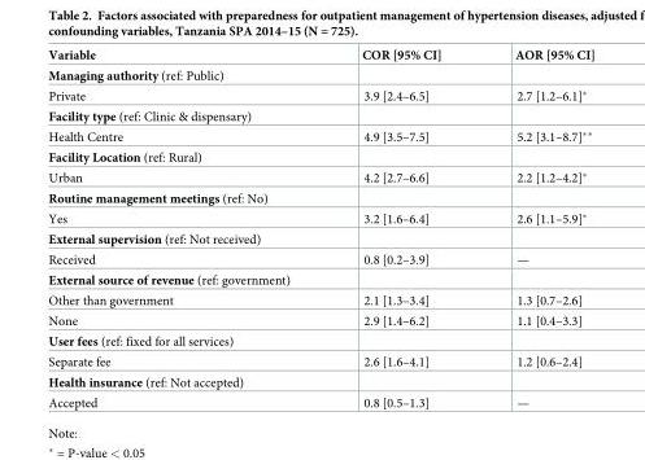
<table><thead><tr><td>Variable</td><td>COR [95% CI]</td><td>AOR [95% CI]</td></tr></thead><tbody><tr><td colspan="3">Managing authority (ref: Public)</td></tr><tr><td>Private</td><td>3.9 [2.4–6.5]</td><td>2.7 [1.2–6.1]*</td></tr><tr><td colspan="3">Facility type (ref: Clinic &amp; dispensary)</td></tr><tr><td>Health Centre</td><td>4.9 [3.5–7.5]</td><td>5.2 [3.1–8.7]**</td></tr><tr><td colspan="3">Facility Location (ref: Rural)</td></tr><tr><td>Urban</td><td>4.2 [2.7–6.6]</td><td>2.2 [1.2–4.2]*</td></tr><tr><td colspan="3">Routine management meetings (ref: No)</td></tr><tr><td>Yes</td><td>3.2 [1.6–6.4]</td><td>2.6 [1.1–5.9]*</td></tr><tr><td colspan="3">External supervision (ref: Not received)</td></tr><tr><td>Received</td><td>0.8 [0.2–3.9]</td><td>—</td></tr><tr><td colspan="3">External source of revenue (ref: government)</td></tr><tr><td>Other than government</td><td>2.1 [1.3–3.4]</td><td>1.3 [0.7–2.6]</td></tr><tr><td>None</td><td>2.9 [1.4–6.2]</td><td>1.1 [0.4–3.3]</td></tr><tr><td colspan="3">User fees (ref: fixed for all services)</td></tr><tr><td>Separate fee</td><td>2.6 [1.6–4.1]</td><td>1.2 [0.6–2.4]</td></tr><tr><td colspan="3">Health insurance (ref: Not accepted)</td></tr><tr><td>Accepted</td><td>0.8 [0.5–1.3]</td><td>—</td></tr></tbody></table>